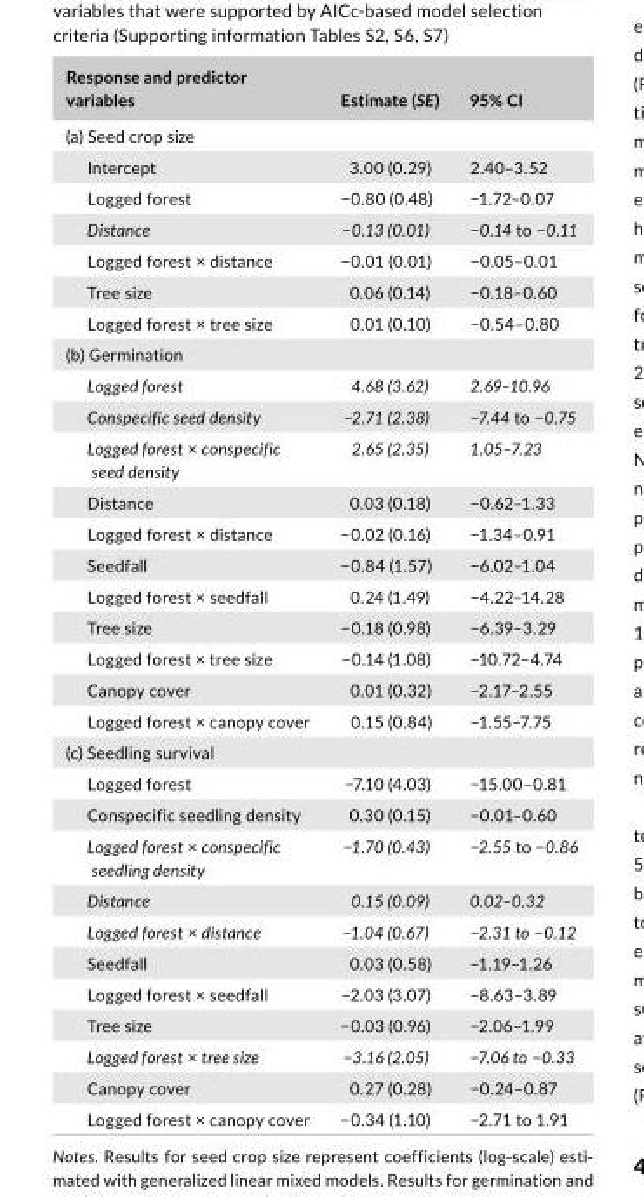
<table><thead><tr><td>Response and predictor variables</td><td>Estimate (SE)</td><td>95% CI</td></tr></thead><tbody><tr><td colspan="3">(a) Seed crop size</td></tr><tr><td>Intercept</td><td>3.00 (0.29)</td><td>2.40–3.52</td></tr><tr><td>Logged forest</td><td>−0.80 (0.48)</td><td>−1.72–0.07</td></tr><tr><td>Distance</td><td>−0.13 (0.01)</td><td>−0.14 to −0.11</td></tr><tr><td>Logged forest × distance</td><td>−0.01 (0.01)</td><td>−0.05–0.01</td></tr><tr><td>Tree size</td><td>0.06 (0.14)</td><td>−0.18–0.60</td></tr><tr><td>Logged forest × tree size</td><td>0.01 (0.10)</td><td>−0.54–0.80</td></tr><tr><td colspan="3">(b) Germination</td></tr><tr><td>Logged forest</td><td>4.68 (3.62)</td><td>2.69–10.96</td></tr><tr><td>Conspecific seed density</td><td>−2.71 (2.38)</td><td>−7.44 to −0.75</td></tr><tr><td>Logged forest × conspecific seed density</td><td>2.65 (2.35)</td><td>1.05–7.23</td></tr><tr><td>Distance</td><td>0.03 (0.18)</td><td>−0.62–1.33</td></tr><tr><td>Logged forest × distance</td><td>−0.02 (0.16)</td><td>−1.34–0.91</td></tr><tr><td>Seedfall</td><td>−0.84 (1.57)</td><td>−6.02–1.04</td></tr><tr><td>Logged forest × seedfall</td><td>0.24 (1.49)</td><td>−4.22–14.28</td></tr><tr><td>Tree size</td><td>−0.18 (0.98)</td><td>−6.39–3.29</td></tr><tr><td>Logged forest × tree size</td><td>−0.14 (1.08)</td><td>−10.72–4.74</td></tr><tr><td>Canopy cover</td><td>0.01 (0.32)</td><td>−2.17–2.55</td></tr><tr><td>Logged forest × canopy cover</td><td>0.15 (0.84)</td><td>−1.55–7.75</td></tr><tr><td colspan="3">(c) Seedling survival</td></tr><tr><td>Logged forest</td><td>−7.10 (4.03)</td><td>−15.00–0.81</td></tr><tr><td>Conspecific seedling density</td><td>0.30 (0.15)</td><td>−0.01–0.60</td></tr><tr><td>Logged forest × conspecific seedling density</td><td>−1.70 (0.43)</td><td>−2.55 to −0.86</td></tr><tr><td>Distance</td><td>0.15 (0.09)</td><td>0.02–0.32</td></tr><tr><td>Logged forest × distance</td><td>−1.04 (0.67)</td><td>−2.31 to −0.12</td></tr><tr><td>Seedfall</td><td>0.03 (0.58)</td><td>−1.19–1.26</td></tr><tr><td>Logged forest × seedfall</td><td>−2.03 (3.07)</td><td>−8.63–3.89</td></tr><tr><td>Tree size</td><td>−0.03 (0.96)</td><td>−2.06–1.99</td></tr><tr><td>Logged forest × tree size</td><td>−3.16 (2.05)</td><td>−7.06 to −0.33</td></tr><tr><td>Canopy cover</td><td>0.27 (0.28)</td><td>−0.24–0.87</td></tr><tr><td>Logged forest × canopy cover</td><td>−0.34 (1.10)</td><td>−2.71 to 1.91</td></tr></tbody></table>